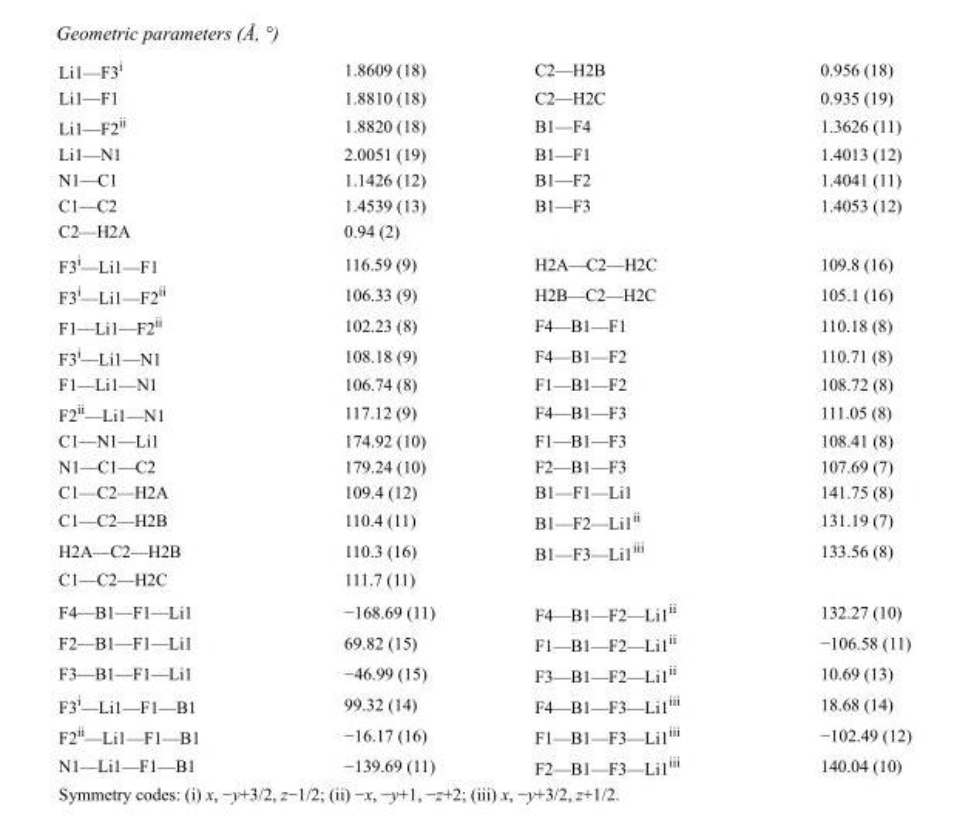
<table><tbody><tr><td>Li1—F3<sup>i</sup></td><td>1.8609 (18)</td><td>C2—H2B</td><td>0.956 (18)</td></tr><tr><td>Li1—F1</td><td>1.8810 (18)</td><td>C2—H2C</td><td>0.935 (19)</td></tr><tr><td>Li1—F2<sup>ii</sup></td><td>1.8820 (18)</td><td>B1—F4</td><td>1.3626 (11)</td></tr><tr><td>Li1—N1</td><td>2.0051 (19)</td><td>B1—F1</td><td>1.4013 (12)</td></tr><tr><td>N1—C1</td><td>1.1426 (12)</td><td>B1—F2</td><td>1.4041 (11)</td></tr><tr><td>C1—C2</td><td>1.4539 (13)</td><td>B1—F3</td><td>1.4053 (12)</td></tr><tr><td>C2—H2A</td><td>0.94 (2)</td><td></td><td></td></tr><tr><td>F3<sup>i</sup>—Li1—F1</td><td>116.59 (9)</td><td>H2A—C2—H2C</td><td>109.8 (16)</td></tr><tr><td>F3<sup>i</sup>—Li1—F2<sup>ii</sup></td><td>106.33 (9)</td><td>H2B—C2—H2C</td><td>105.1 (16)</td></tr><tr><td>F1—Li1—F2<sup>ii</sup></td><td>102.23 (8)</td><td>F4—B1—F1</td><td>110.18 (8)</td></tr><tr><td>F3<sup>i</sup>—Li1—N1</td><td>108.18 (9)</td><td>F4—B1—F2</td><td>110.71 (8)</td></tr><tr><td>F1—Li1—N1</td><td>106.74 (8)</td><td>F1—B1—F2</td><td>108.72 (8)</td></tr><tr><td>F2<sup>ii</sup>—Li1—N1</td><td>117.12 (9)</td><td>F4—B1—F3</td><td>111.05 (8)</td></tr><tr><td>C1—N1—Li1</td><td>174.92 (10)</td><td>F1—B1—F3</td><td>108.41 (8)</td></tr><tr><td>N1—C1—C2</td><td>179.24 (10)</td><td>F2—B1—F3</td><td>107.69 (7)</td></tr><tr><td>C1—C2—H2A</td><td>109.4 (12)</td><td>B1—F1—Li1</td><td>141.75 (8)</td></tr><tr><td>C1—C2—H2B</td><td>110.4 (11)</td><td>B1—F2—Li1<sup>ii</sup></td><td>131.19 (7)</td></tr><tr><td>H2A—C2—H2B</td><td>110.3 (16)</td><td>B1—F3—Li1<sup>iii</sup></td><td>133.56 (8)</td></tr><tr><td>C1—C2—H2C</td><td>111.7 (11)</td><td></td><td></td></tr><tr><td>F4—B1—F1—Li1</td><td>−168.69 (11)</td><td>F4—B1—F2—Li1<sup>ii</sup></td><td>132.27 (10)</td></tr><tr><td>F2—B1—F1—Li1</td><td>69.82 (15)</td><td>F1—B1—F2—Li1<sup>ii</sup></td><td>−106.58 (11)</td></tr><tr><td>F3—B1—F1—Li1</td><td>−46.99 (15)</td><td>F3—B1—F2—Li1<sup>ii</sup></td><td>10.69 (13)</td></tr><tr><td>F3<sup>i</sup>—Li1—F1—B1</td><td>99.32 (14)</td><td>F4—B1—F3—Li1<sup>iii</sup></td><td>18.68 (14)</td></tr><tr><td>F2<sup>ii</sup>—Li1—F1—B1</td><td>−16.17 (16)</td><td>F1—B1—F3—Li1<sup>iii</sup></td><td>−102.49 (12)</td></tr><tr><td>N1—Li1—F1—B1</td><td>−139.69 (11)</td><td>F2—B1—F3—Li1<sup>iii</sup></td><td>140.04 (10)</td></tr></tbody></table>